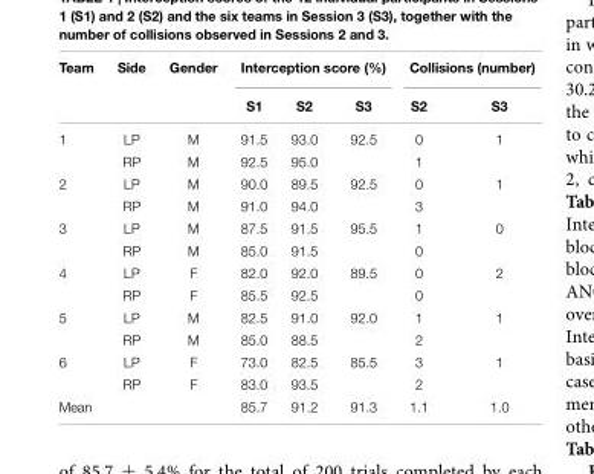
<table><thead><tr><td rowspan="2">Team</td><td rowspan="2">Side</td><td rowspan="2">Gender</td><td colspan="3">Interception score (%)</td><td colspan="2">Collisions (number)</td></tr><tr><td>S1</td><td>S2</td><td>S3</td><td>S2</td><td>S3</td></tr></thead><tbody><tr><td rowspan="2">1</td><td>LP</td><td>M</td><td>91.5</td><td>93.0</td><td>92.5</td><td>0</td><td>1</td></tr><tr><td>RP</td><td>M</td><td>92.5</td><td>95.0</td><td></td><td>1</td><td></td></tr><tr><td rowspan="2">2</td><td>LP</td><td>M</td><td>90.0</td><td>89.5</td><td>92.5</td><td>0</td><td>1</td></tr><tr><td>RP</td><td>M</td><td>91.0</td><td>94.0</td><td></td><td>3</td><td></td></tr><tr><td rowspan="2">3</td><td>LP</td><td>M</td><td>87.5</td><td>91.5</td><td>95.5</td><td>1</td><td>0</td></tr><tr><td>RP</td><td>M</td><td>85.0</td><td>91.5</td><td></td><td>0</td><td></td></tr><tr><td rowspan="2">4</td><td>LP</td><td>F</td><td>82.0</td><td>92.0</td><td>89.5</td><td>0</td><td>2</td></tr><tr><td>RP</td><td>F</td><td>85.5</td><td>92.5</td><td></td><td>0</td><td></td></tr><tr><td rowspan="2">5</td><td>LP</td><td>M</td><td>82.5</td><td>91.0</td><td>92.0</td><td>1</td><td>1</td></tr><tr><td>RP</td><td>M</td><td>85.0</td><td>88.5</td><td></td><td>2</td><td></td></tr><tr><td rowspan="2">6</td><td>LP</td><td>F</td><td>73.0</td><td>82.5</td><td>85.5</td><td>3</td><td>1</td></tr><tr><td>RP</td><td>F</td><td>83.0</td><td>93.5</td><td></td><td>2</td><td></td></tr><tr><td>Mean</td><td></td><td></td><td>85.7</td><td>91.2</td><td>91.3</td><td>1.1</td><td>1.0</td></tr></tbody></table>